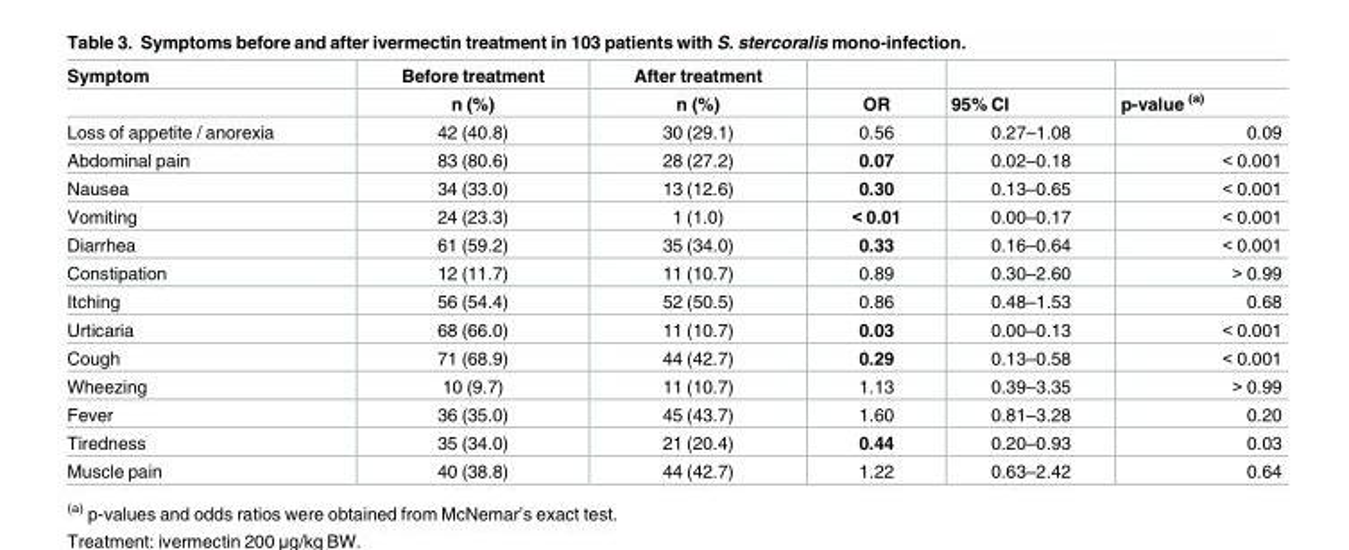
<table><thead><tr><td rowspan="2">Symptom</td><td rowspan="2">Before treatment n (%)</td><td rowspan="2">After treatment n (%)</td><td rowspan="2">OR</td><td rowspan="2">95% CI</td><td rowspan="2">p-value <sup>(a)</sup></td></tr><tr></tr></thead><tbody><tr><td>Loss of appetite / anorexia</td><td>42 (40.8)</td><td>30 (29.1)</td><td>0.56</td><td>0.27–1.08</td><td>0.09</td></tr><tr><td>Abdominal pain</td><td>83 (80.6)</td><td>28 (27.2)</td><td>0.07</td><td>0.02–0.18</td><td>&lt; 0.001</td></tr><tr><td>Nausea</td><td>34 (33.0)</td><td>13 (12.6)</td><td>0.30</td><td>0.13–0.65</td><td>&lt; 0.001</td></tr><tr><td>Vomiting</td><td>24 (23.3)</td><td>1 (1.0)</td><td>&lt; 0.01</td><td>0.00–0.17</td><td>&lt; 0.001</td></tr><tr><td>Diarrhea</td><td>61 (59.2)</td><td>35 (34.0)</td><td>0.33</td><td>0.16–0.64</td><td>&lt; 0.001</td></tr><tr><td>Constipation</td><td>12 (11.7)</td><td>11 (10.7)</td><td>0.89</td><td>0.30–2.60</td><td>&gt; 0.99</td></tr><tr><td>Itching</td><td>56 (54.4)</td><td>52 (50.5)</td><td>0.86</td><td>0.48–1.53</td><td>0.68</td></tr><tr><td>Urticaria</td><td>68 (66.0)</td><td>11 (10.7)</td><td>0.03</td><td>0.00–0.13</td><td>&lt; 0.001</td></tr><tr><td>Cough</td><td>71 (68.9)</td><td>44 (42.7)</td><td>0.29</td><td>0.13–0.58</td><td>&lt; 0.001</td></tr><tr><td>Wheezing</td><td>10 (9.7)</td><td>11 (10.7)</td><td>1.13</td><td>0.39–3.35</td><td>&gt; 0.99</td></tr><tr><td>Fever</td><td>36 (35.0)</td><td>45 (43.7)</td><td>1.60</td><td>0.81–3.28</td><td>0.20</td></tr><tr><td>Tiredness</td><td>35 (34.0)</td><td>21 (20.4)</td><td>0.44</td><td>0.20–0.93</td><td>0.03</td></tr><tr><td>Muscle pain</td><td>40 (38.8)</td><td>44 (42.7)</td><td>1.22</td><td>0.63–2.42</td><td>0.64</td></tr></tbody></table>